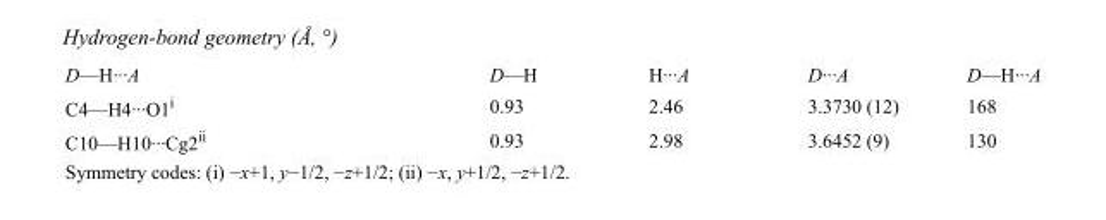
<table><tbody><tr><td>D—H···A</td><td>D—H</td><td>H···A</td><td>D···A</td><td>D—H···A</td></tr><tr><td>C4—H4···O1<sup>i</sup></td><td>0.93</td><td>2.46</td><td>3.3730 (12)</td><td>168</td></tr><tr><td>C10—H10···Cg2<sup>ii</sup></td><td>0.93</td><td>2.98</td><td>3.6452 (9)</td><td>130</td></tr></tbody></table>